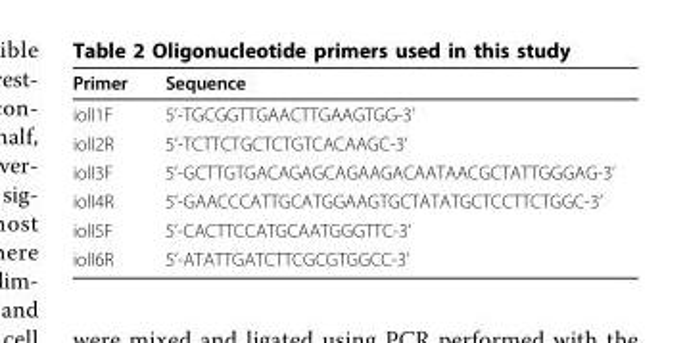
<table><thead><tr><td>Primer</td><td>Sequence</td></tr></thead><tbody><tr><td>iolI1F</td><td>5’-TGCGGTTGAACTTGAAGTGG-3’</td></tr><tr><td>iolI2R</td><td>5’-TCTTCTGCTCTGTCACAAGC-3’</td></tr><tr><td>iolI3F</td><td>5’-GCTTGTGACAGAGCAGAAGACAATAACGCTATTGGGAG-3’</td></tr><tr><td>iolI4R</td><td>5’-GAACCCATTGCATGGAAGTGCTATATGCTCCTTCTGGC-3’</td></tr><tr><td>iolI5F</td><td>5’-CACTTCCATGCAATGGGTTC-3’</td></tr><tr><td>iolI6R</td><td>5’-ATATTGATCTTCGCGTGGCC-3’</td></tr></tbody></table>